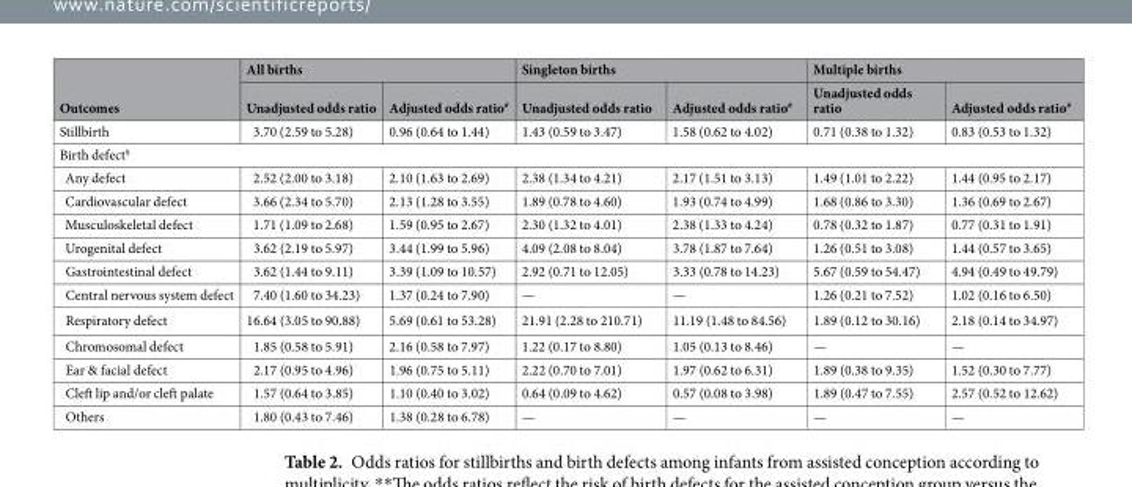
<table><thead><tr><td rowspan="2">Outcomes</td><td colspan="2">All births</td><td colspan="2">Singleton births</td><td colspan="2">Multiple births</td></tr><tr><td>Unadjusted odds ratio</td><td>Adjusted odds ratio<sup>#</sup></td><td>Unadjusted odds ratio</td><td>Adjusted odds ratio<sup>#</sup></td><td>Unadjusted odds ratio</td><td>Adjusted odds ratio<sup>#</sup></td></tr></thead><tbody><tr><td>Stillbirth</td><td>3.70 (2.59 to 5.28)</td><td>0.96 (0.64 to 1.44)</td><td>1.43 (0.59 to 3.47)</td><td>1.58 (0.62 to 4.02)</td><td>0.71 (0.38 to 1.32)</td><td>0.83 (0.53 to 1.32)</td></tr><tr><td colspan="7">Birth defect<sup>§</sup></td></tr><tr><td>Any defect</td><td>2.52 (2.00 to 3.18)</td><td>2.10 (1.63 to 2.69)</td><td>2.38 (1.34 to 4.21)</td><td>2.17 (1.51 to 3.13)</td><td>1.49 (1.01 to 2.22)</td><td>1.44 (0.95 to 2.17)</td></tr><tr><td>Cardiovascular defect</td><td>3.66 (2.34 to 5.70)</td><td>2.13 (1.28 to 3.55)</td><td>1.89 (0.78 to 4.60)</td><td>1.93 (0.74 to 4.99)</td><td>1.68 (0.86 to 3.30)</td><td>1.36 (0.69 to 2.67)</td></tr><tr><td>Musculoskeletal defect</td><td>1.71 (1.09 to 2.68)</td><td>1.59 (0.95 to 2.67)</td><td>2.30 (1.32 to 4.01)</td><td>2.38 (1.33 to 4.24)</td><td>0.78 (0.32 to 1.87)</td><td>0.77 (0.31 to 1.91)</td></tr><tr><td>Urogenital defect</td><td>3.62 (2.19 to 5.97)</td><td>3.44 (1.99 to 5.96)</td><td>4.09 (2.08 to 8.04)</td><td>3.78 (1.87 to 7.64)</td><td>1.26 (0.51 to 3.08)</td><td>1.44 (0.57 to 3.65)</td></tr><tr><td>Gastrointestinal defect</td><td>3.62 (1.44 to 9.11)</td><td>3.39 (1.09 to 10.57)</td><td>2.92 (0.71 to 12.05)</td><td>3.33 (0.78 to 14.23)</td><td>5.67 (0.59 to 54.47)</td><td>4.94 (0.49 to 49.79)</td></tr><tr><td>Central nervous system defect</td><td>7.40 (1.60 to 34.23)</td><td>1.37 (0.24 to 7.90)</td><td>—</td><td>—</td><td>1.26 (0.21 to 7.52)</td><td>1.02 (0.16 to 6.50)</td></tr><tr><td>Respiratory defect</td><td>16.64 (3.05 to 90.88)</td><td>5.69 (0.61 to 53.28)</td><td>21.91 (2.28 to 210.71)</td><td>11.19 (1.48 to 84.56)</td><td>1.89 (0.12 to 30.16)</td><td>2.18 (0.14 to 34.97)</td></tr><tr><td>Chromosomal defect</td><td>1.85 (0.58 to 5.91)</td><td>2.16 (0.58 to 7.97)</td><td>1.22 (0.17 to 8.80)</td><td>1.05 (0.13 to 8.46)</td><td>—</td><td>—</td></tr><tr><td>Ear &amp; facial defect</td><td>2.17 (0.95 to 4.96)</td><td>1.96 (0.75 to 5.11)</td><td>2.22 (0.70 to 7.01)</td><td>1.97 (0.62 to 6.31)</td><td>1.89 (0.38 to 9.35)</td><td>1.52 (0.30 to 7.77)</td></tr><tr><td>Cleft lip and/or cleft palate</td><td>1.57 (0.64 to 3.85)</td><td>1.10 (0.40 to 3.02)</td><td>0.64 (0.09 to 4.62)</td><td>0.57 (0.08 to 3.98)</td><td>1.89 (0.47 to 7.55)</td><td>2.57 (0.52 to 12.62)</td></tr><tr><td>Others</td><td>1.80 (0.43 to 7.46)</td><td>1.38 (0.28 to 6.78)</td><td>—</td><td>—</td><td>—</td><td>—</td></tr></tbody></table>